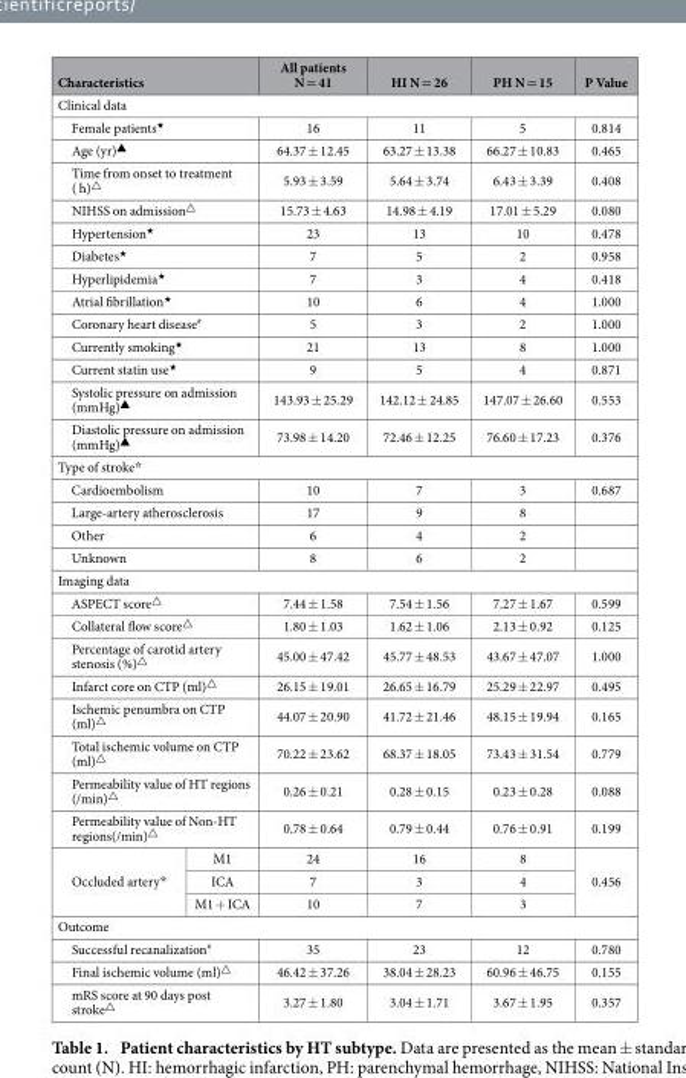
<table><thead><tr><td colspan="2">Characteristics</td><td>All patients N = 41</td><td>HI N = 26</td><td>PH N = 15</td><td>P Value</td></tr></thead><tbody><tr><td colspan="6">Clinical data</td></tr><tr><td colspan="2">Female patients<sup>★</sup></td><td>16</td><td>11</td><td>5</td><td>0.814</td></tr><tr><td colspan="2">Age (yr)<sup>▲</sup></td><td>64.37 ± 12.45</td><td>63.27 ± 13.38</td><td>66.27 ± 10.83</td><td>0.465</td></tr><tr><td colspan="2">Time from onset to treatment ( h)<sup>△</sup></td><td>5.93 ± 3.59</td><td>5.64 ± 3.74</td><td>6.43 ± 3.39</td><td>0.408</td></tr><tr><td colspan="2">NIHSS on admission<sup>△</sup></td><td>15.73 ± 4.63</td><td>14.98 ± 4.19</td><td>17.01 ± 5.29</td><td>0.080</td></tr><tr><td colspan="2">Hypertension<sup>★</sup></td><td>23</td><td>13</td><td>10</td><td>0.478</td></tr><tr><td colspan="2">Diabetes<sup>★</sup></td><td>7</td><td>5</td><td>2</td><td>0.958</td></tr><tr><td colspan="2">Hyperlipidemia<sup>★</sup></td><td>7</td><td>3</td><td>4</td><td>0.418</td></tr><tr><td colspan="2">Atrial fibrillation<sup>★</sup></td><td>10</td><td>6</td><td>4</td><td>1.000</td></tr><tr><td colspan="2">Coronary heart disease<sup>#</sup></td><td>5</td><td>3</td><td>2</td><td>1.000</td></tr><tr><td colspan="2">Currently smoking<sup>★</sup></td><td>21</td><td>13</td><td>8</td><td>1.000</td></tr><tr><td colspan="2">Current statin use<sup>★</sup></td><td>9</td><td>5</td><td>4</td><td>0.871</td></tr><tr><td colspan="2">Systolic pressure on admission (mmHg)<sup>▲</sup></td><td>143.93 ± 25.29</td><td>142.12 ± 24.85</td><td>147.07 ± 26.60</td><td>0.553</td></tr><tr><td colspan="2">Diastolic pressure on admission (mmHg)<sup>▲</sup></td><td>73.98 ± 14.20</td><td>72.46 ± 12.25</td><td>76.60 ± 17.23</td><td>0.376</td></tr><tr><td colspan="6">Type of stroke<sup>☆</sup></td></tr><tr><td colspan="2">Cardioembolism</td><td>10</td><td>7</td><td>3</td><td>0.687</td></tr><tr><td colspan="2">Large-artery atherosclerosis</td><td>17</td><td>9</td><td>8</td><td></td></tr><tr><td colspan="2">Other</td><td>6</td><td>4</td><td>2</td><td></td></tr><tr><td colspan="2">Unknown</td><td>8</td><td>6</td><td>2</td><td></td></tr><tr><td colspan="6">Imaging data</td></tr><tr><td colspan="2">ASPECT score<sup>△</sup></td><td>7.44 ± 1.58</td><td>7.54 ± 1.56</td><td>7.27 ± 1.67</td><td>0.599</td></tr><tr><td colspan="2">Collateral flow score<sup>△</sup></td><td>1.80 ± 1.03</td><td>1.62 ± 1.06</td><td>2.13 ± 0.92</td><td>0.125</td></tr><tr><td colspan="2">Percentage of carotid artery stenosis (%)<sup>△</sup></td><td>45.00 ± 47.42</td><td>45.77 ± 48.53</td><td>43.67 ± 47.07</td><td>1.000</td></tr><tr><td colspan="2">Infarct core on CTP (ml)<sup>△</sup></td><td>26.15 ± 19.01</td><td>26.65 ± 16.79</td><td>25.29 ± 22.97</td><td>0.495</td></tr><tr><td colspan="2">Ischemic penumbra on CTP (ml)<sup>△</sup></td><td>44.07 ± 20.90</td><td>41.72 ± 21.46</td><td>48.15 ± 19.94</td><td>0.165</td></tr><tr><td colspan="2">Total ischemic volume on CTP (ml)<sup>△</sup></td><td>70.22 ± 23.62</td><td>68.37 ± 18.05</td><td>73.43 ± 31.54</td><td>0.779</td></tr><tr><td colspan="2">Permeability value of HT regions (/min)<sup>△</sup></td><td>0.26 ± 0.21</td><td>0.28 ± 0.15</td><td>0.23 ± 0.28</td><td>0.088</td></tr><tr><td colspan="2">Permeability value of Non-HT regions(/min)<sup>△</sup></td><td>0.78 ± 0.64</td><td>0.79 ± 0.44</td><td>0.76 ± 0.91</td><td>0.199</td></tr><tr><td rowspan="3">Occluded artery<sup>☆</sup></td><td>M1</td><td>24</td><td>16</td><td>8</td><td rowspan="3">0.456</td></tr><tr><td>ICA</td><td>7</td><td>3</td><td>4</td></tr><tr><td>M1 + ICA</td><td>10</td><td>7</td><td>3</td></tr><tr><td colspan="6">Outcome</td></tr><tr><td colspan="2">Successful recanalization<sup>#</sup></td><td>35</td><td>23</td><td>12</td><td>0.780</td></tr><tr><td colspan="2">Final ischemic volume (ml)<sup>△</sup></td><td>46.42 ± 37.26</td><td>38.04 ± 28.23</td><td>60.96 ± 46.75</td><td>0.155</td></tr><tr><td colspan="2">mRS score at 90 days post stroke<sup>△</sup></td><td>3.27 ± 1.80</td><td>3.04 ± 1.71</td><td>3.67 ± 1.95</td><td>0.357</td></tr></tbody></table>